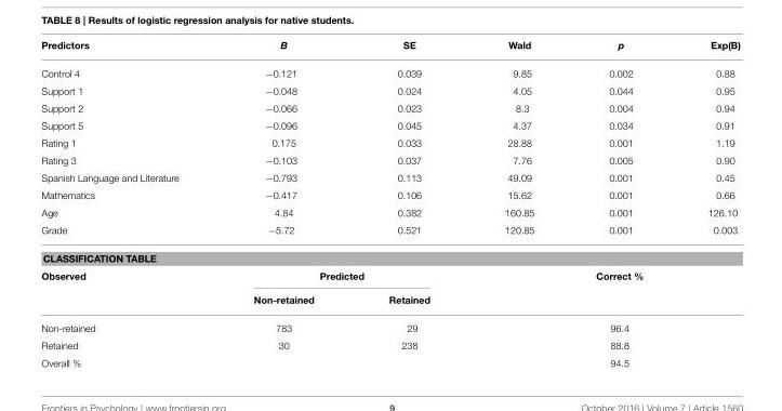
<table><thead><tr><td>Predictors</td><td>B</td><td>SE</td><td>Wald</td><td>p</td><td>Exp(B)</td></tr></thead><tbody><tr><td>Control 4</td><td>−0.121</td><td>0.039</td><td>9.85</td><td>0.002</td><td>0.88</td></tr><tr><td>Support 1</td><td>−0.048</td><td>0.024</td><td>4.05</td><td>0.044</td><td>0.95</td></tr><tr><td>Support 2</td><td>−0.066</td><td>0.023</td><td>8.3</td><td>0.004</td><td>0.94</td></tr><tr><td>Support 5</td><td>−0.096</td><td>0.045</td><td>4.37</td><td>0.034</td><td>0.91</td></tr><tr><td>Rating 1</td><td>0.175</td><td>0.033</td><td>28.88</td><td>0.001</td><td>1.19</td></tr><tr><td>Rating 3</td><td>−0.103</td><td>0.037</td><td>7.76</td><td>0.005</td><td>0.90</td></tr><tr><td>Spanish Language and Literature</td><td>−0.793</td><td>0.113</td><td>49.09</td><td>0.001</td><td>0.45</td></tr><tr><td>Mathematics</td><td>−0.417</td><td>0.106</td><td>15.62</td><td>0.001</td><td>0.66</td></tr><tr><td>Age</td><td>4.84</td><td>0.382</td><td>160.85</td><td>0.001</td><td>126.10</td></tr><tr><td>Grade</td><td>−5.72</td><td>0.521</td><td>120.85</td><td>0.001</td><td>0.003</td></tr><tr><td colspan="6">CLASSIFICATION TABLE</td></tr><tr><td rowspan="2">Observed</td><td colspan="2">Predicted</td><td colspan="3">Correct %</td></tr><tr><td>Non-retained</td><td>Retained</td><td colspan="3"></td></tr><tr><td>Non-retained</td><td>783</td><td>29</td><td colspan="3">96.4</td></tr><tr><td>Retained</td><td>30</td><td>238</td><td colspan="3">88.8</td></tr><tr><td>Overall %</td><td></td><td></td><td colspan="3">94.5</td></tr></tbody></table>